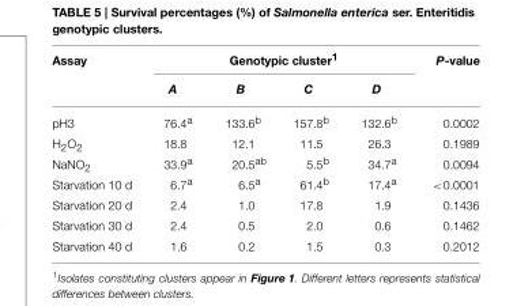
<table><thead><tr><td rowspan="2">Assay</td><td colspan="4">Genotypic cluster<sup>1</sup></td><td rowspan="2">P-value</td></tr><tr><td>A</td><td>B</td><td>C</td><td>D</td></tr></thead><tbody><tr><td>pH3</td><td>76.4<sup>a</sup></td><td>133.6<sup>b</sup></td><td>157.8<sup>b</sup></td><td>132.6<sup>b</sup></td><td>0.0002</td></tr><tr><td>H<sub>2</sub>O<sub>2</sub></td><td>18.8</td><td>12.1</td><td>11.5</td><td>26.3</td><td>0.1989</td></tr><tr><td>NaNO<sub>2</sub></td><td>33.9<sup>a</sup></td><td>20.5<sup>ab</sup></td><td>5.5<sup>b</sup></td><td>34.7<sup>a</sup></td><td>0.0094</td></tr><tr><td>Starvation 10 d</td><td>6.7<sup>a</sup></td><td>6.5<sup>a</sup></td><td>61.4<sup>b</sup></td><td>17.4<sup>a</sup></td><td>&lt;0.0001</td></tr><tr><td>Starvation 20 d</td><td>2.4</td><td>1.0</td><td>17.8</td><td>1.9</td><td>0.1436</td></tr><tr><td>Starvation 30 d</td><td>2.4</td><td>0.5</td><td>2.0</td><td>0.6</td><td>0.1462</td></tr><tr><td>Starvation 40 d</td><td>1.6</td><td>0.2</td><td>1.5</td><td>0.3</td><td>0.2012</td></tr></tbody></table>